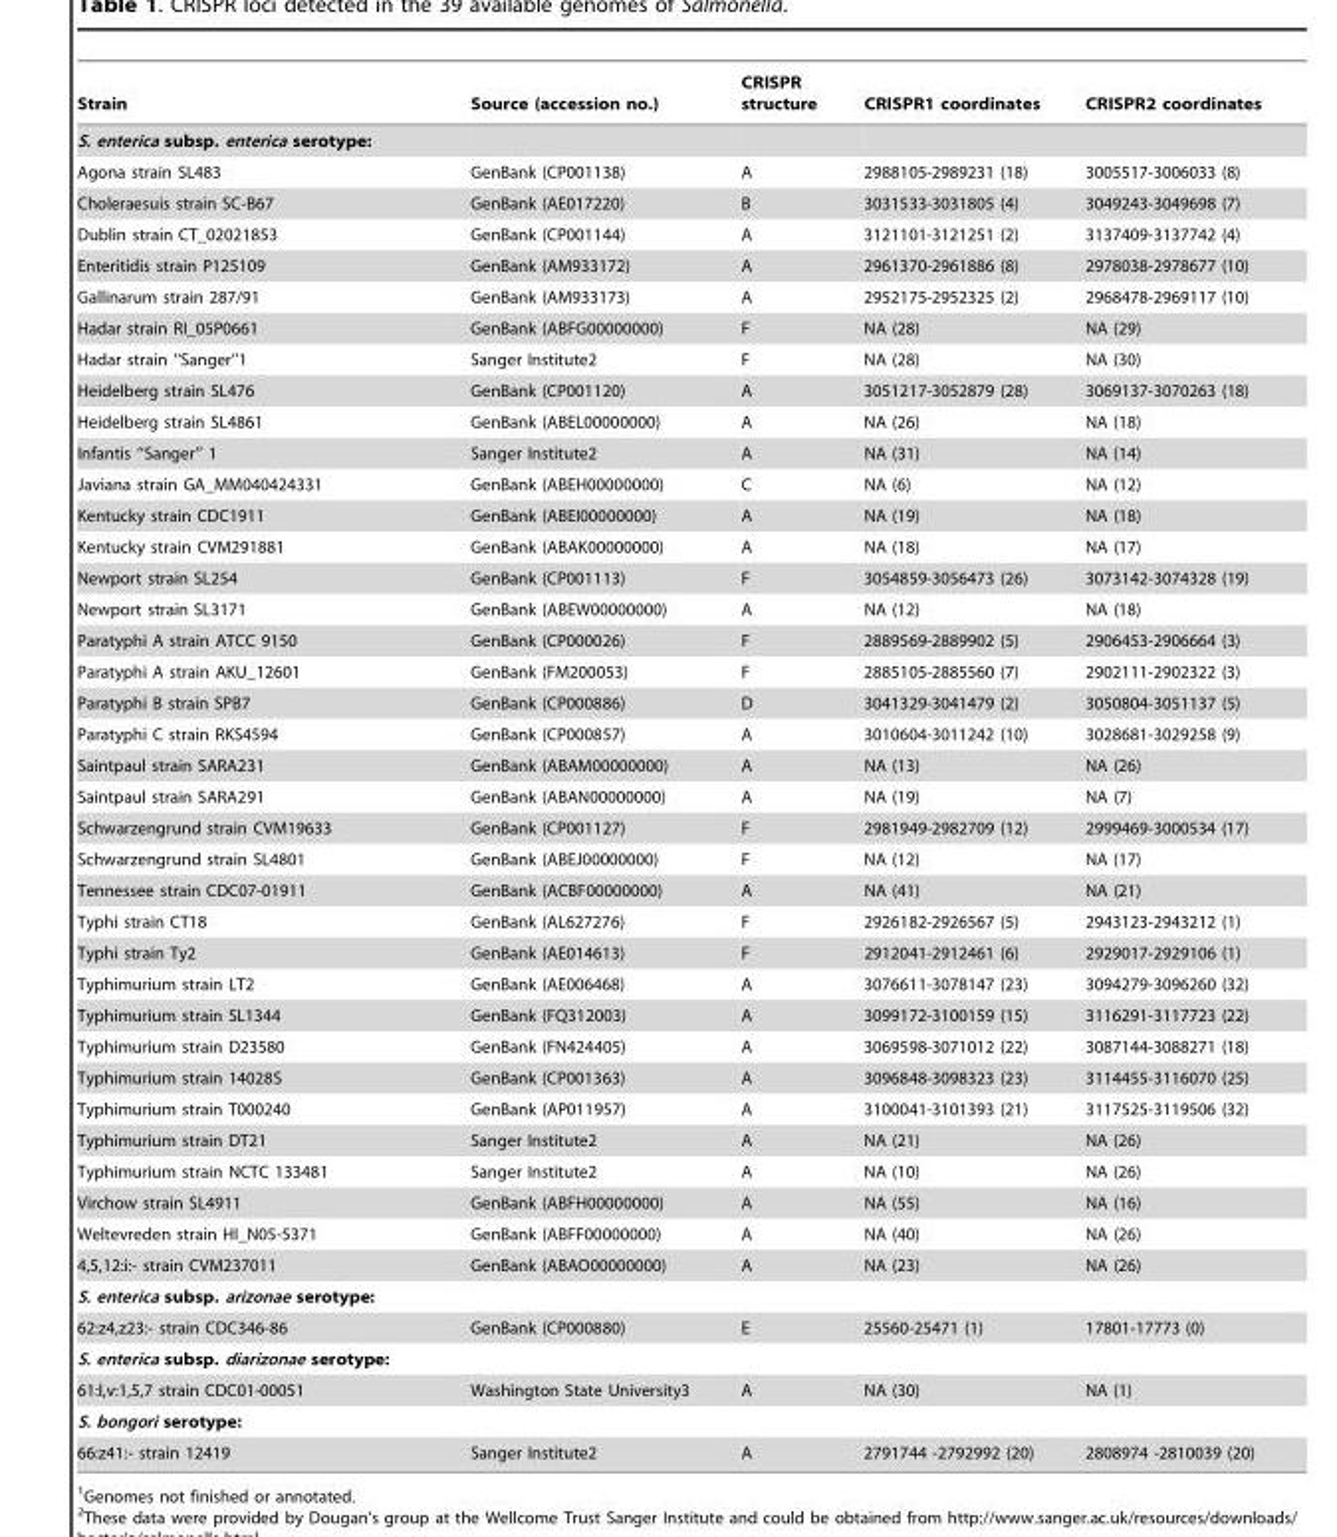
<table><thead><tr><td>Strain</td><td>Source (accession no.)</td><td>CRISPR structure</td><td>CRISPR1 coordinates</td><td>CRISPR2 coordinates</td></tr></thead><tbody><tr><td colspan="5">S. enterica subsp. enterica serotype:</td></tr><tr><td>Agona strain SL483</td><td>GenBank (CP001138)</td><td>A</td><td>2988105-2989231 (18)</td><td>3005517-3006033 (8)</td></tr><tr><td>Choleraesuis strain SC-B67</td><td>GenBank (AE017220)</td><td>B</td><td>3031533-3031805 (4)</td><td>3049243-3049698 (7)</td></tr><tr><td>Dublin strain CT_02021853</td><td>GenBank (CP001144)</td><td>A</td><td>3121101-3121251 (2)</td><td>3137409-3137742 (4)</td></tr><tr><td>Enteritidis strain P125109</td><td>GenBank (AM933172)</td><td>A</td><td>2961370-2961886 (8)</td><td>2978038-2978677 (10)</td></tr><tr><td>Gallinarum strain 287/91</td><td>GenBank (AM933173)</td><td>A</td><td>2952175-2952325 (2)</td><td>2968478-2969117 (10)</td></tr><tr><td>Hadar strain RI_05P0661</td><td>GenBank (ABFG00000000)</td><td>F</td><td>NA (28)</td><td>NA (29)</td></tr><tr><td>Hadar strain ‘‘Sanger’’1</td><td>Sanger Institute2</td><td>F</td><td>NA (28)</td><td>NA (30)</td></tr><tr><td>Heidelberg strain SL476</td><td>GenBank (CP001120)</td><td>A</td><td>3051217-3052879 (28)</td><td>3069137-3070263 (18)</td></tr><tr><td>Heidelberg strain SL4861</td><td>GenBank (ABEL00000000)</td><td>A</td><td>NA (26)</td><td>NA (18)</td></tr><tr><td>Infantis ‘‘Sanger’’ 1</td><td>Sanger Institute2</td><td>A</td><td>NA (31)</td><td>NA (14)</td></tr><tr><td>Javiana strain GA_MM040424331</td><td>GenBank (ABEH00000000)</td><td>C</td><td>NA (6)</td><td>NA (12)</td></tr><tr><td>Kentucky strain CDC1911</td><td>GenBank (ABEI00000000)</td><td>A</td><td>NA (19)</td><td>NA (18)</td></tr><tr><td>Kentucky strain CVM291881</td><td>GenBank (ABAK00000000)</td><td>A</td><td>NA (18)</td><td>NA (17)</td></tr><tr><td>Newport strain SL254</td><td>GenBank (CP001113)</td><td>F</td><td>3054859-3056473 (26)</td><td>3073142-3074328 (19)</td></tr><tr><td>Newport strain SL3171</td><td>GenBank (ABEW00000000)</td><td>A</td><td>NA (12)</td><td>NA (18)</td></tr><tr><td>Paratyphi A strain ATCC 9150</td><td>GenBank (CP000026)</td><td>F</td><td>2889569-2889902 (5)</td><td>2906453-2906664 (3)</td></tr><tr><td>Paratyphi A strain AKU_12601</td><td>GenBank (FM200053)</td><td>F</td><td>2885105-2885560 (7)</td><td>2902111-2902322 (3)</td></tr><tr><td>Paratyphi B strain SPB7</td><td>GenBank (CP000886)</td><td>D</td><td>3041329-3041479 (2)</td><td>3050804-3051137 (5)</td></tr><tr><td>Paratyphi C strain RKS4594</td><td>GenBank (CP000857)</td><td>A</td><td>3010604-3011242 (10)</td><td>3028681-3029258 (9)</td></tr><tr><td>Saintpaul strain SARA231</td><td>GenBank (ABAM00000000)</td><td>A</td><td>NA (13)</td><td>NA (26)</td></tr><tr><td>Saintpaul strain SARA291</td><td>GenBank (ABAN00000000)</td><td>A</td><td>NA (19)</td><td>NA (7)</td></tr><tr><td>Schwarzengrund strain CVM19633</td><td>GenBank (CP001127)</td><td>F</td><td>2981949-2982709 (12)</td><td>2999469-3000534 (17)</td></tr><tr><td>Schwarzengrund strain SL4801</td><td>GenBank (ABEJ00000000)</td><td>F</td><td>NA (12)</td><td>NA (17)</td></tr><tr><td>Tennessee strain CDC07-01911</td><td>GenBank (ACBF00000000)</td><td>A</td><td>NA (41)</td><td>NA (21)</td></tr><tr><td>Typhi strain CT18</td><td>GenBank (AL627276)</td><td>F</td><td>2926182-2926567 (5)</td><td>2943123-2943212 (1)</td></tr><tr><td>Typhi strain Ty2</td><td>GenBank (AE014613)</td><td>F</td><td>2912041-2912461 (6)</td><td>2929017-2929106 (1)</td></tr><tr><td>Typhimurium strain LT2</td><td>GenBank (AE006468)</td><td>A</td><td>3076611-3078147 (23)</td><td>3094279-3096260 (32)</td></tr><tr><td>Typhimurium strain SL1344</td><td>GenBank (FQ312003)</td><td>A</td><td>3099172-3100159 (15)</td><td>3116291-3117723 (22)</td></tr><tr><td>Typhimurium strain D23580</td><td>GenBank (FN424405)</td><td>A</td><td>3069598-3071012 (22)</td><td>3087144-3088271 (18)</td></tr><tr><td>Typhimurium strain 14028S</td><td>GenBank (CP001363)</td><td>A</td><td>3096848-3098323 (23)</td><td>3114455-3116070 (25)</td></tr><tr><td>Typhimurium strain T000240</td><td>GenBank (AP011957)</td><td>A</td><td>3100041-3101393 (21)</td><td>3117525-3119506 (32)</td></tr><tr><td>Typhimurium strain DT21</td><td>Sanger Institute2</td><td>A</td><td>NA (21)</td><td>NA (26)</td></tr><tr><td>Typhimurium strain NCTC 133481</td><td>Sanger Institute2</td><td>A</td><td>NA (10)</td><td>NA (26)</td></tr><tr><td>Virchow strain SL4911</td><td>GenBank (ABFH00000000)</td><td>A</td><td>NA (55)</td><td>NA (16)</td></tr><tr><td>Weltevreden strain HI_N05-5371</td><td>GenBank (ABFF00000000)</td><td>A</td><td>NA (40)</td><td>NA (26)</td></tr><tr><td>4,5,12:i:- strain CVM237011</td><td>GenBank (ABAO00000000)</td><td>A</td><td>NA (23)</td><td>NA (26)</td></tr><tr><td colspan="5">S. enterica subsp. arizonae serotype:</td></tr><tr><td>62:z4,z23:- strain CDC346-86</td><td>GenBank (CP000880)</td><td>E</td><td>25560-25471 (1)</td><td>17801-17773 (0)</td></tr><tr><td colspan="5">S. enterica subsp. diarizonae serotype:</td></tr><tr><td>61:l,v:1,5,7 strain CDC01-00051</td><td>Washington State University3</td><td>A</td><td>NA (30)</td><td>NA (1)</td></tr><tr><td colspan="5">S. bongori serotype:</td></tr><tr><td>66:z41:- strain 12419</td><td>Sanger Institute2</td><td>A</td><td>2791744 -2792992 (20)</td><td>2808974 -2810039 (20)</td></tr></tbody></table>